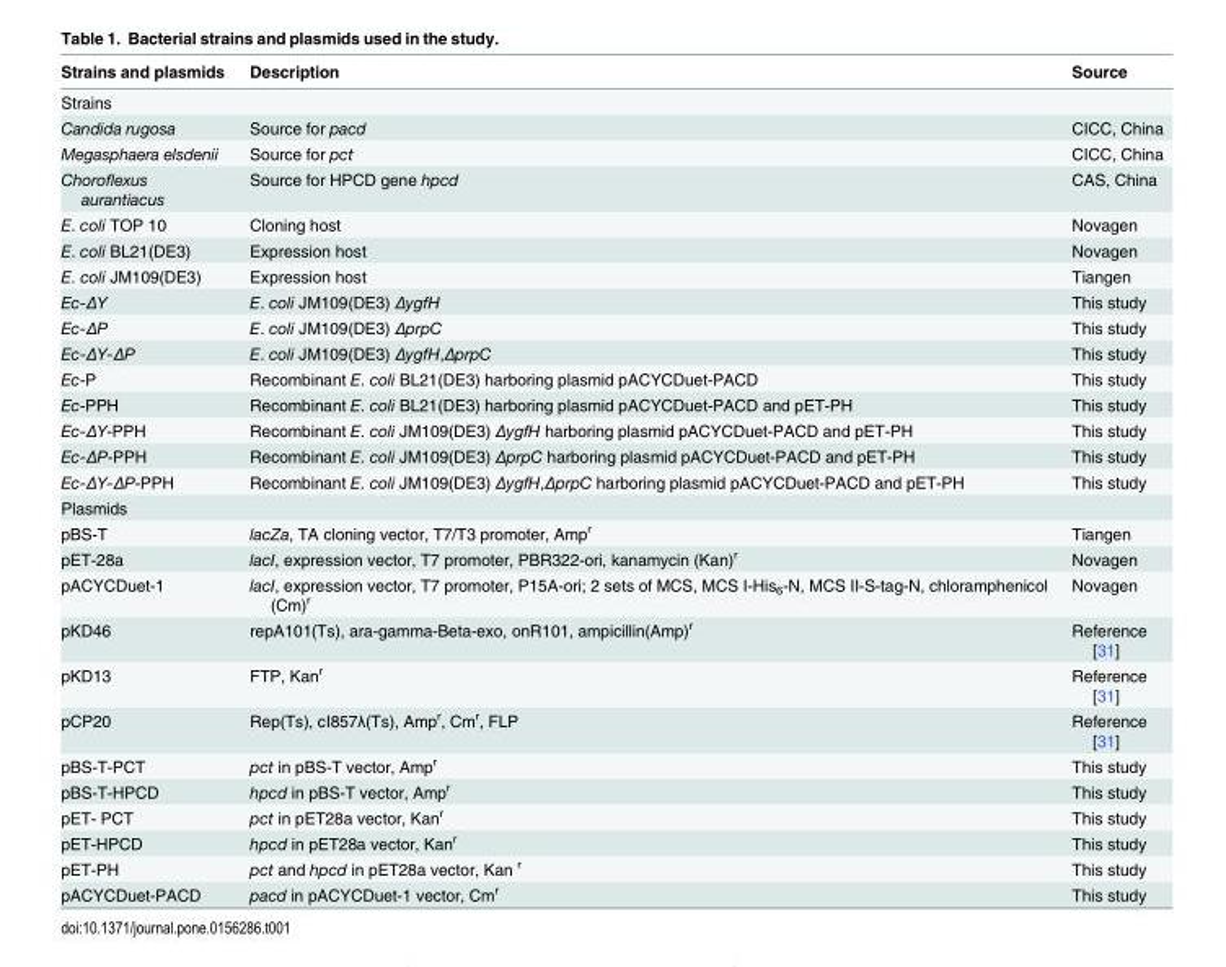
<table><thead><tr><td>Strains and plasmids</td><td>Description</td><td>Source</td></tr></thead><tbody><tr><td colspan="3">Strains</td></tr><tr><td>Candida rugosa</td><td>Source for pacd</td><td>CICC, China</td></tr><tr><td>Megasphaera elsdenii</td><td>Source for pct</td><td>CICC, China</td></tr><tr><td>Choroflexus aurantiacus</td><td>Source for HPCD gene hpcd</td><td>CAS, China</td></tr><tr><td>E. coli TOP 10</td><td>Cloning host</td><td>Novagen</td></tr><tr><td>E. coli BL21(DE3)</td><td>Expression host</td><td>Novagen</td></tr><tr><td>E. coli JM109(DE3)</td><td>Expression host</td><td>Tiangen</td></tr><tr><td>Ec-ΔY</td><td>E. coli JM109(DE3) ΔygfH</td><td>This study</td></tr><tr><td>Ec-ΔP</td><td>E. coli JM109(DE3) ΔprpC</td><td>This study</td></tr><tr><td>Ec-ΔY-ΔP</td><td>E. coli JM109(DE3) ΔygfH,ΔprpC</td><td>This study</td></tr><tr><td>Ec-P</td><td>Recombinant E. coli BL21(DE3) harboring plasmid pACYCDuet-PACD</td><td>This study</td></tr><tr><td>Ec-PPH</td><td>Recombinant E. coli BL21(DE3) harboring plasmid pACYCDuet-PACD and pET-PH</td><td>This study</td></tr><tr><td>Ec-ΔY-PPH</td><td>Recombinant E. coli JM109(DE3) ΔygfH harboring plasmid pACYCDuet-PACD and pET-PH</td><td>This study</td></tr><tr><td>Ec-ΔP-PPH</td><td>Recombinant E. coli JM109(DE3) ΔprpC harboring plasmid pACYCDuet-PACD and pET-PH</td><td>This study</td></tr><tr><td>Ec-ΔY-ΔP-PPH</td><td>Recombinant E. coli JM109(DE3) ΔygfH,ΔprpC harboring plasmid pACYCDuet-PACD and pET-PH</td><td>This study</td></tr><tr><td colspan="3">Plasmids</td></tr><tr><td>pBS-T</td><td>lacZa, TA cloning vector, T7/T3 promoter, Amp<sup>r</sup></td><td>Tiangen</td></tr><tr><td>pET-28a</td><td>lacI, expression vector, T7 promoter, PBR322-ori, kanamycin (Kan)<sup>r</sup></td><td>Novagen</td></tr><tr><td>pACYCDuet-1</td><td>lacI, expression vector, T7 promoter, P15A-ori; 2 sets of MCS, MCS I-His<sub>6</sub>-N, MCS II-S-tag-N, chloramphenicol (Cm)<sup>r</sup></td><td>Novagen</td></tr><tr><td>pKD46</td><td>repA101(Ts), ara-gamma-Beta-exo, onR101, ampicillin(Amp)<sup>r</sup></td><td>Reference [31]</td></tr><tr><td>pKD13</td><td>FTP, Kan<sup>r</sup></td><td>Reference [31]</td></tr><tr><td>pCP20</td><td>Rep(Ts), cI857λ(Ts), Amp<sup>r</sup>, Cm<sup>r</sup>, FLP</td><td>Reference [31]</td></tr><tr><td>pBS-T-PCT</td><td>pct in pBS-T vector, Amp<sup>r</sup></td><td>This study</td></tr><tr><td>pBS-T-HPCD</td><td>hpcd in pBS-T vector, Amp<sup>r</sup></td><td>This study</td></tr><tr><td>pET- PCT</td><td>pct in pET28a vector, Kan<sup>r</sup></td><td>This study</td></tr><tr><td>pET-HPCD</td><td>hpcd in pET28a vector, Kan<sup>r</sup></td><td>This study</td></tr><tr><td>pET-PH</td><td>pct and hpcd in pET28a vector, Kan <sup>r</sup></td><td>This study</td></tr><tr><td>pACYCDuet-PACD</td><td>pacd in pACYCDuet-1 vector, Cm<sup>r</sup></td><td>This study</td></tr></tbody></table>